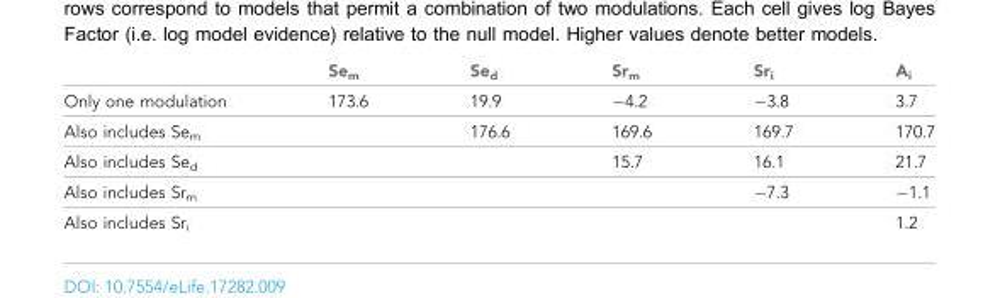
<table><thead><tr><td></td><td>Se<sub>m</sub></td><td>Se<sub>d</sub></td><td>Sr<sub>m</sub></td><td>Sr<sub>i</sub></td><td>A<sub>i</sub></td></tr></thead><tbody><tr><td>Only one modulation</td><td>173.6</td><td>19.9</td><td>−4.2</td><td>−3.8</td><td>3.7</td></tr><tr><td>Also includes Se<sub>m</sub></td><td></td><td>176.6</td><td>169.6</td><td>169.7</td><td>170.7</td></tr><tr><td>Also includes Se<sub>d</sub></td><td></td><td></td><td>15.7</td><td>16.1</td><td>21.7</td></tr><tr><td>Also includes Sr<sub>m</sub></td><td></td><td></td><td></td><td>−7.3</td><td>−1.1</td></tr><tr><td>Also includes Sr<sub>i</sub></td><td></td><td></td><td></td><td></td><td>1.2</td></tr></tbody></table>